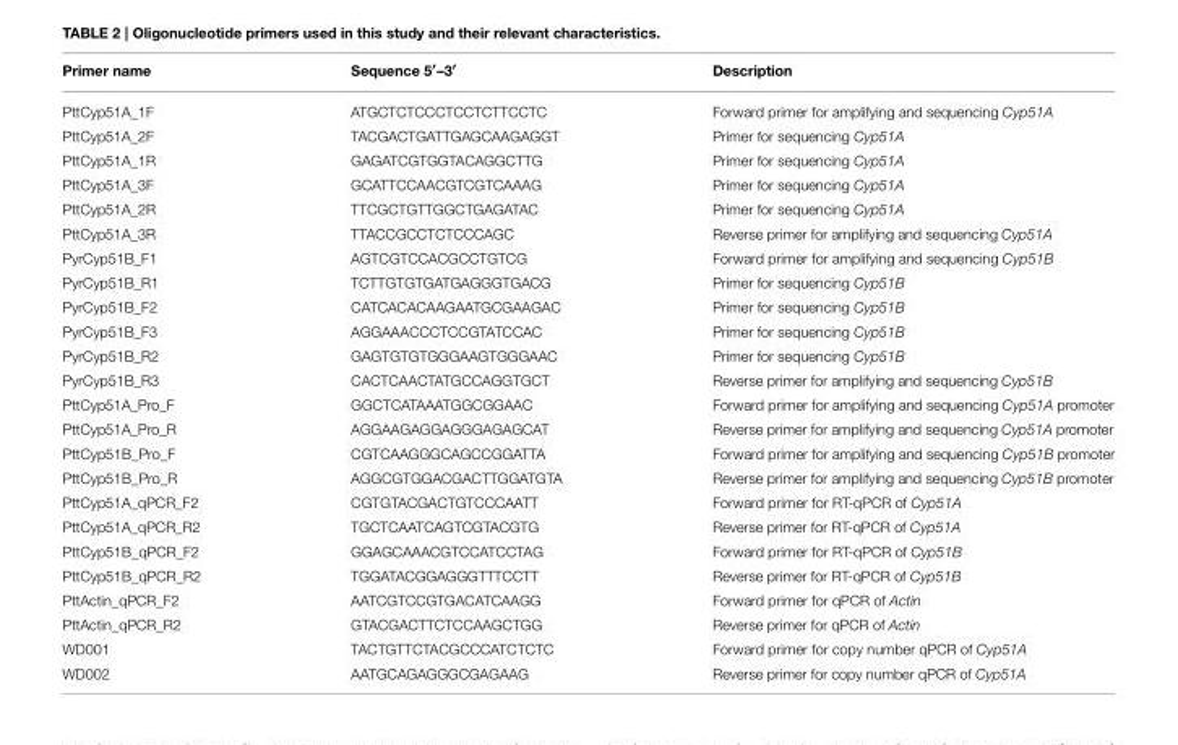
<table><thead><tr><td>Primer name</td><td>Sequence 5′–3′</td><td>Description</td></tr></thead><tbody><tr><td>PttCyp51A_1F</td><td>ATGCTCTCCCTCCTCTTCCTC</td><td>Forward primer for amplifying and sequencing Cyp51A</td></tr><tr><td>PttCyp51A_2F</td><td>TACGACTGATTGAGCAAGAGGT</td><td>Primer for sequencing Cyp51A</td></tr><tr><td>PttCyp51A_1R</td><td>GAGATCGTGGTACAGGCTTG</td><td>Primer for sequencing Cyp51A</td></tr><tr><td>PttCyp51A_3F</td><td>GCATTCCAACGTCGTCAAAG</td><td>Primer for sequencing Cyp51A</td></tr><tr><td>PttCyp51A_2R</td><td>TTCGCTGTTGGCTGAGATAC</td><td>Primer for sequencing Cyp51A</td></tr><tr><td>PttCyp51A_3R</td><td>TTACCGCCTCTCCCAGC</td><td>Reverse primer for amplifying and sequencing Cyp51A</td></tr><tr><td>PyrCyp51B_F1</td><td>AGTCGTCCACGCCTGTCG</td><td>Forward primer for amplifying and sequencing Cyp51B</td></tr><tr><td>PyrCyp51B_R1</td><td>TCTTGTGTGATGAGGGTGACG</td><td>Primer for sequencing Cyp51B</td></tr><tr><td>PyrCyp51B_F2</td><td>CATCACACAAGAATGCGAAGAC</td><td>Primer for sequencing Cyp51B</td></tr><tr><td>PyrCyp51B_F3</td><td>AGGAAACCCTCCGTATCCAC</td><td>Primer for sequencing Cyp51B</td></tr><tr><td>PyrCyp51B_R2</td><td>GAGTGTGTGGGAAGTGGGAAC</td><td>Primer for sequencing Cyp51B</td></tr><tr><td>PyrCyp51B_R3</td><td>CACTCAACTATGCCAGGTGCT</td><td>Reverse primer for amplifying and sequencing Cyp51B</td></tr><tr><td>PttCyp51A_Pro_F</td><td>GGCTCATAAATGGCGGAAC</td><td>Forward primer for amplifying and sequencing Cyp51A promoter</td></tr><tr><td>PttCyp51A_Pro_R</td><td>AGGAAGAGGAGGGAGAGCAT</td><td>Reverse primer for amplifying and sequencing Cyp51A promoter</td></tr><tr><td>PttCyp51B_Pro_F</td><td>CGTCAAGGGCAGCCGGATTA</td><td>Forward primer for amplifying and sequencing Cyp51B promoter</td></tr><tr><td>PttCyp51B_Pro_R</td><td>AGGCGTGGACGACTTGGATGTA</td><td>Reverse primer for amplifying and sequencing Cyp51B promoter</td></tr><tr><td>PttCyp51A_qPCR_F2</td><td>CGTGTACGACTGTCCCAATT</td><td>Forward primer for RT-qPCR of Cyp51A</td></tr><tr><td>PttCyp51A_qPCR_R2</td><td>TGCTCAATCAGTCGTACGTG</td><td>Reverse primer for RT-qPCR of Cyp51A</td></tr><tr><td>PttCyp51B_qPCR_F2</td><td>GGAGCAAACGTCCATCCTAG</td><td>Forward primer for RT-qPCR of Cyp51B</td></tr><tr><td>PttCyp51B_qPCR_R2</td><td>TGGATACGGAGGGTTTCCTT</td><td>Reverse primer for RT-qPCR of Cyp51B</td></tr><tr><td>PttActin_qPCR_F2</td><td>AATCGTCCGTGACATCAAGG</td><td>Forward primer for qPCR of Actin</td></tr><tr><td>PttActin_qPCR_R2</td><td>GTACGACTTCTCCAAGCTGG</td><td>Reverse primer for qPCR of Actin</td></tr><tr><td>WD001</td><td>TACTGTTCTACGCCCATCTCTC</td><td>Forward primer for copy number qPCR of Cyp51A</td></tr><tr><td>WD002</td><td>AATGCAGAGGGCGAGAAG</td><td>Reverse primer for copy number qPCR of Cyp51A</td></tr></tbody></table>